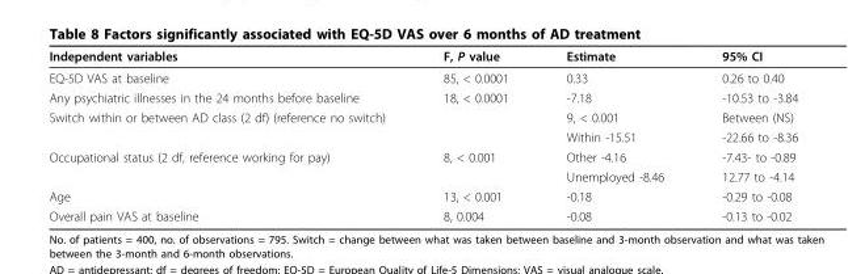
<table><thead><tr><td>Independent variables</td><td>F, P value</td><td>Estimate</td><td>95% CI</td></tr></thead><tbody><tr><td>EQ-5D VAS at baseline</td><td>85, &lt; 0.0001</td><td>0.33</td><td>0.26 to 0.40</td></tr><tr><td>Any psychiatric illnesses in the 24 months before baseline</td><td>18, &lt; 0.0001</td><td>-7.18</td><td>-10.53 to -3.84</td></tr><tr><td rowspan="2">Switch within or between AD class (2 df) (reference no switch)</td><td></td><td>9, &lt; 0.001</td><td>Between (NS)</td></tr><tr><td></td><td>Within -15.51</td><td>-22.66 to -8.36</td></tr><tr><td rowspan="2">Occupational status (2 df, reference working for pay)</td><td>8, &lt; 0.001</td><td>Other -4.16</td><td>-7.43- to -0.89</td></tr><tr><td></td><td>Unemployed -8.46</td><td>12.77 to -4.14</td></tr><tr><td>Age</td><td>13, &lt; 0.001</td><td>-0.18</td><td>-0.29 to -0.08</td></tr><tr><td>Overall pain VAS at baseline</td><td>8, 0.004</td><td>-0.08</td><td>-0.13 to -0.02</td></tr></tbody></table>